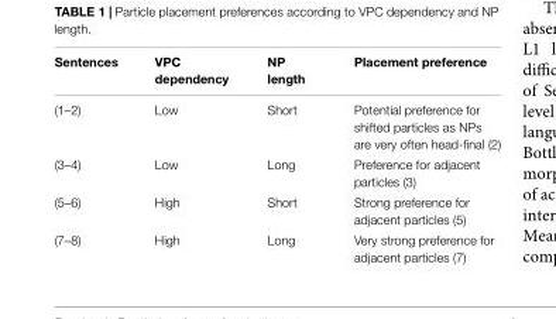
<table><thead><tr><td>Sentences</td><td>VPC dependency</td><td>NP length</td><td>Placement preference</td></tr></thead><tbody><tr><td>(1–2)</td><td>Low</td><td>Short</td><td>Potential preference for shifted particles as NPs are very often head-final (2)</td></tr><tr><td>(3–4)</td><td>Low</td><td>Long</td><td>Preference for adjacent particles (3)</td></tr><tr><td>(5–6)</td><td>High</td><td>Short</td><td>Strong preference for adjacent particles (5)</td></tr><tr><td>(7–8)</td><td>High</td><td>Long</td><td>Very strong preference for adjacent particles (7)</td></tr></tbody></table>